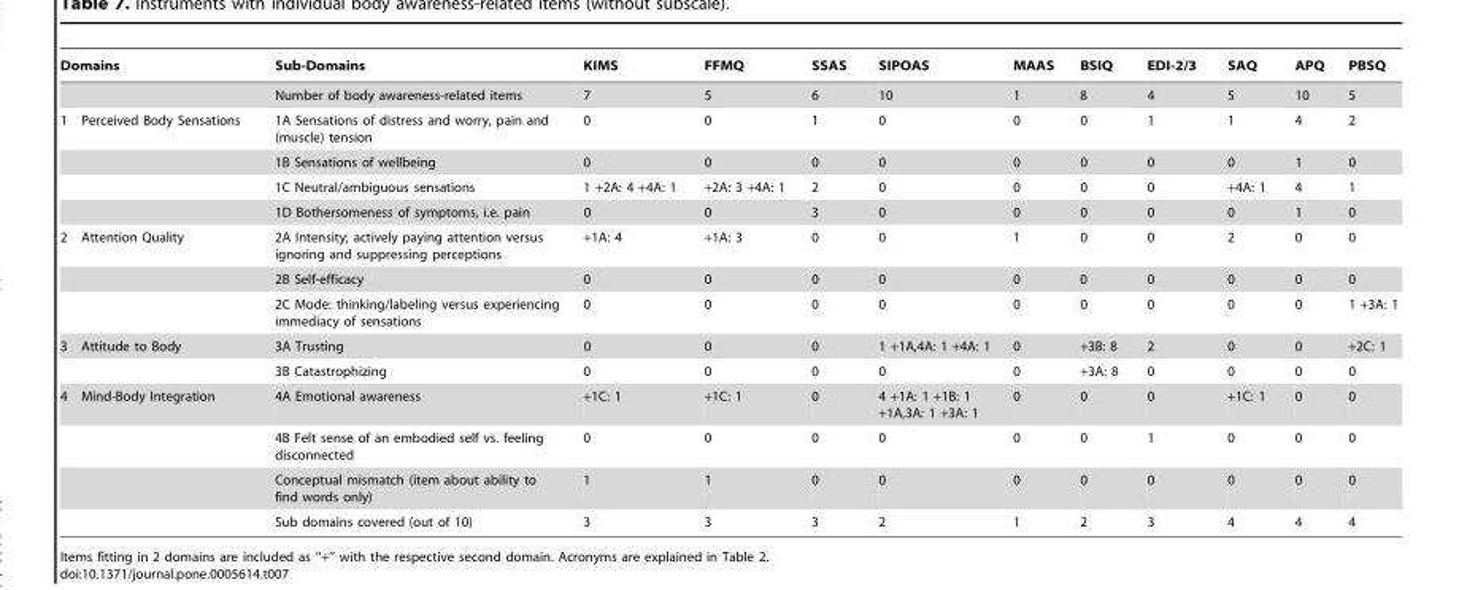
<table><thead><tr><td>Domains</td><td>Sub-Domains</td><td>KIMS</td><td>FFMQ</td><td>SSAS</td><td>SIPOAS</td><td>MAAS</td><td>BSIQ</td><td>EDI-2/3</td><td>SAQ</td><td>APQ</td><td>PBSQ</td></tr></thead><tbody><tr><td></td><td>Number of body awareness-related items</td><td>7</td><td>5</td><td>6</td><td>10</td><td>1</td><td>8</td><td>4</td><td>5</td><td>10</td><td>5</td></tr><tr><td rowspan="4">1 Perceived Body Sensations</td><td>1A Sensations of distress and worry, pain and (muscle) tension</td><td>0</td><td>0</td><td>1</td><td>0</td><td>0</td><td>0</td><td>1</td><td>1</td><td>4</td><td>2</td></tr><tr><td>1B Sensations of wellbeing</td><td>0</td><td>0</td><td>0</td><td>0</td><td>0</td><td>0</td><td>0</td><td>0</td><td>1</td><td>0</td></tr><tr><td>1C Neutral/ambiguous sensations</td><td>1 +2A: 4 +4A: 1</td><td>+2A: 3 +4A: 1</td><td>2</td><td>0</td><td>0</td><td>0</td><td>0</td><td>+4A: 1</td><td>4</td><td>1</td></tr><tr><td>1D Bothersomeness of symptoms, i.e. pain</td><td>0</td><td>0</td><td>3</td><td>0</td><td>0</td><td>0</td><td>0</td><td>0</td><td>1</td><td>0</td></tr><tr><td rowspan="3">2 Attention Quality</td><td>2A Intensity; actively paying attention versus ignoring and suppressing perceptions</td><td>+1A: 4</td><td>+1A: 3</td><td>0</td><td>0</td><td>1</td><td>0</td><td>0</td><td>2</td><td>0</td><td>0</td></tr><tr><td>2B Self-efficacy</td><td>0</td><td>0</td><td>0</td><td>0</td><td>0</td><td>0</td><td>0</td><td>0</td><td>0</td><td>0</td></tr><tr><td>2C Mode: thinking/labeling versus experiencing immediacy of sensations</td><td>0</td><td>0</td><td>0</td><td>0</td><td>0</td><td>0</td><td>0</td><td>0</td><td>0</td><td>1 +3A: 1</td></tr><tr><td rowspan="2">3 Attitude to Body</td><td>3A Trusting</td><td>0</td><td>0</td><td>0</td><td>1 +1A,4A: 1 +4A: 1</td><td>0</td><td>+3B: 8</td><td>2</td><td>0</td><td>0</td><td>+2C: 1</td></tr><tr><td>3B Catastrophizing</td><td>0</td><td>0</td><td>0</td><td>0</td><td>0</td><td>+3A: 8</td><td>0</td><td>0</td><td>0</td><td>0</td></tr><tr><td rowspan="4">4 Mind-Body Integration</td><td>4A Emotional awareness</td><td>+1C: 1</td><td>+1C: 1</td><td>0</td><td>4 +1A: 1 +1B: 1 +1A,3A: 1 +3A: 1</td><td>0</td><td>0</td><td>0</td><td>+1C: 1</td><td>0</td><td>0</td></tr><tr><td>4B Felt sense of an embodied self vs. feeling disconnected</td><td>0</td><td>0</td><td>0</td><td>0</td><td>0</td><td>0</td><td>1</td><td>0</td><td>0</td><td>0</td></tr><tr><td>Conceptual mismatch (item about ability to find words only)</td><td>1</td><td>1</td><td>0</td><td>0</td><td>0</td><td>0</td><td>0</td><td>0</td><td>0</td><td>0</td></tr><tr><td>Sub domains covered (out of 10)</td><td>3</td><td>3</td><td>3</td><td>2</td><td>1</td><td>2</td><td>3</td><td>4</td><td>4</td><td>4</td></tr></tbody></table>